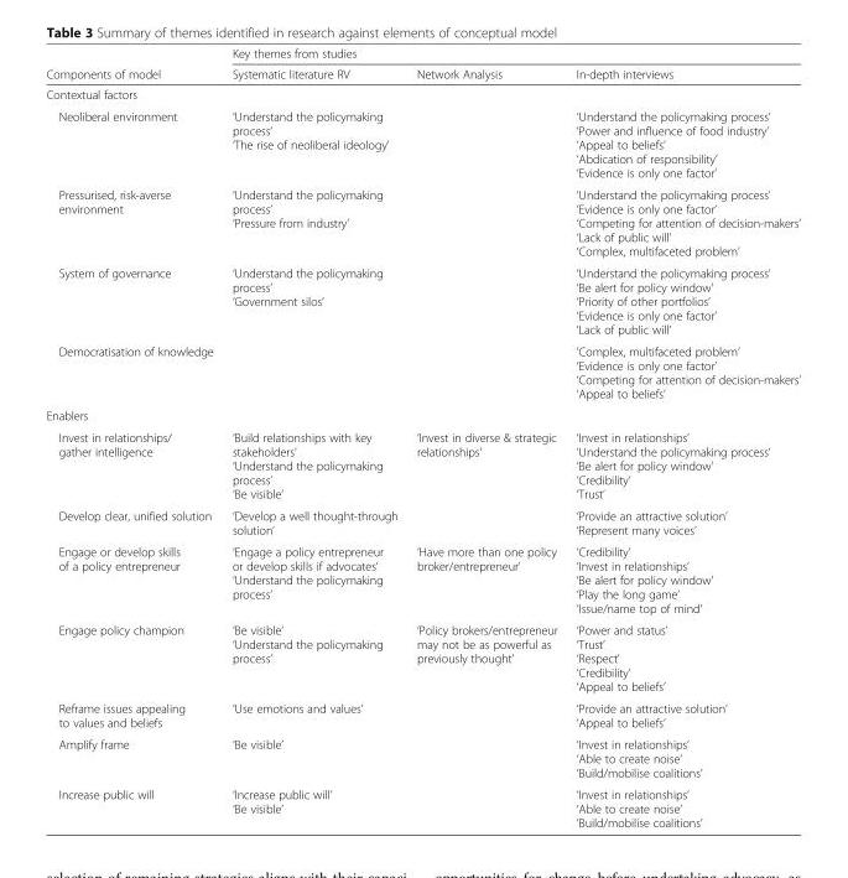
<table><thead><tr><td rowspan="2">Components of model</td><td colspan="3">Key themes from studies</td></tr><tr><td>Systematic literature RV</td><td>Network Analysis</td><td>In-depth interviews</td></tr></thead><tbody><tr><td colspan="4">Contextual factors</td></tr><tr><td>Neoliberal environment</td><td>‘Understand the policymaking process’ ‘The rise of neoliberal ideology’</td><td></td><td>‘Understand the policymaking process’ ‘Power and influence of food industry’ ‘Appeal to beliefs’ ‘Abdication of responsibility’ ‘Evidence is only one factor’</td></tr><tr><td>Pressurised, risk-averse environment</td><td>‘Understand the policymaking process’ ‘Pressure from industry’</td><td></td><td>‘Understand the policymaking process’ ‘Evidence is only one factor’ ‘Competing for attention of decision-makers’ ‘Lack of public will’ ‘Complex, multifaceted problem’</td></tr><tr><td>System of governance</td><td>‘Understand the policymaking process’ ‘Government silos’</td><td></td><td>‘Understand the policymaking process’ ‘Be alert for policy window’ ‘Priority of other portfolios’ ‘Evidence is only one factor’ ‘Lack of public will’</td></tr><tr><td>Democratisation of knowledge</td><td></td><td></td><td>‘Complex, multifaceted problem’ ‘Evidence is only one factor’ ‘Competing for attention of decision-makers’ ‘Appeal to beliefs’</td></tr><tr><td colspan="4">Enablers</td></tr><tr><td>Invest in relationships/ gather intelligence</td><td>‘Build relationships with key stakeholders’ ‘Understand the policymaking process’ ‘Be visible’</td><td>‘Invest in diverse &amp; strategic relationships’</td><td>‘Invest in relationships’ ‘Understand the policymaking process’ ‘Be alert for policy window’ ‘Credibility’ ‘Trust’</td></tr><tr><td>Develop clear, unified solution</td><td>‘Develop a well thought-through solution’</td><td></td><td>‘Provide an attractive solution’ ‘Represent many voices’</td></tr><tr><td>Engage or develop skills of a policy entrepreneur</td><td>‘Engage a policy entrepreneur or develop skills if advocates’ ‘Understand the policymaking process’</td><td>‘Have more than one policy broker/entrepreneur’</td><td>‘Credibility’ ‘Invest in relationships’ ‘Be alert for policy window’ ‘Play the long game’ ‘Issue/name top of mind’</td></tr><tr><td>Engage policy champion</td><td>‘Be visible’ ‘Understand the policymaking process’</td><td>‘Policy brokers/entrepreneur may not be as powerful as previously thought’</td><td>‘Power and status’ ‘Trust’ ‘Respect’ ‘Credibility’ ‘Appeal to beliefs’</td></tr><tr><td>Reframe issues appealing to values and beliefs</td><td>‘Use emotions and values’</td><td></td><td>‘Provide an attractive solution’ ‘Appeal to beliefs’</td></tr><tr><td>Amplify frame</td><td>‘Be visible’</td><td></td><td>‘Invest in relationships’ ‘Able to create noise’ ‘Build/mobilise coalitions’</td></tr><tr><td>Increase public will</td><td>‘Increase public will’ ‘Be visible’</td><td></td><td>‘Invest in relationships’ ‘Able to create noise’ ‘Build/mobilise coalitions’</td></tr></tbody></table>